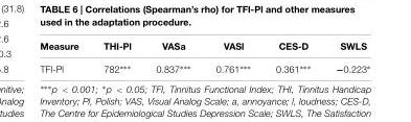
<table><thead><tr><td>Measure</td><td>THI-Pl</td><td>VASa</td><td>VASl</td><td>CES-D</td><td>SWLS</td></tr></thead><tbody><tr><td>TFI-Pl</td><td>782∗∗∗</td><td>0.837∗∗∗</td><td>0.761∗∗∗</td><td>0.361∗∗∗</td><td>−0.223∗</td></tr></tbody></table>